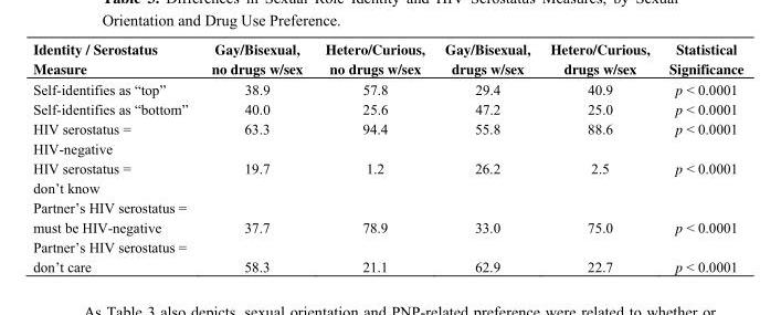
<table><thead><tr><td>Identity / Serostatus Measure</td><td>Gay/Bisexual, no drugs w/sex</td><td>Hetero/Curious, no drugs w/sex</td><td>Gay/Bisexual, drugs w/sex</td><td>Hetero/Curious, drugs w/sex</td><td>Statistical Significance</td></tr></thead><tbody><tr><td>Self-identifies as “top”</td><td>38.9</td><td>57.8</td><td>29.4</td><td>40.9</td><td>p &lt; 0.0001</td></tr><tr><td>Self-identifies as “bottom”</td><td>40.0</td><td>25.6</td><td>47.2</td><td>25.0</td><td>p &lt; 0.0001</td></tr><tr><td>HIV serostatus = HIV-negative</td><td>63.3</td><td>94.4</td><td>55.8</td><td>88.6</td><td>p &lt; 0.0001</td></tr><tr><td>HIV serostatus = don’t know</td><td>19.7</td><td>1.2</td><td>26.2</td><td>2.5</td><td>p &lt; 0.0001</td></tr><tr><td>Partner’s HIV serostatus = must be HIV-negative</td><td>37.7</td><td>78.9</td><td>33.0</td><td>75.0</td><td>p &lt; 0.0001</td></tr><tr><td>Partner’s HIV serostatus = don’t care</td><td>58.3</td><td>21.1</td><td>62.9</td><td>22.7</td><td>p &lt; 0.0001</td></tr></tbody></table>